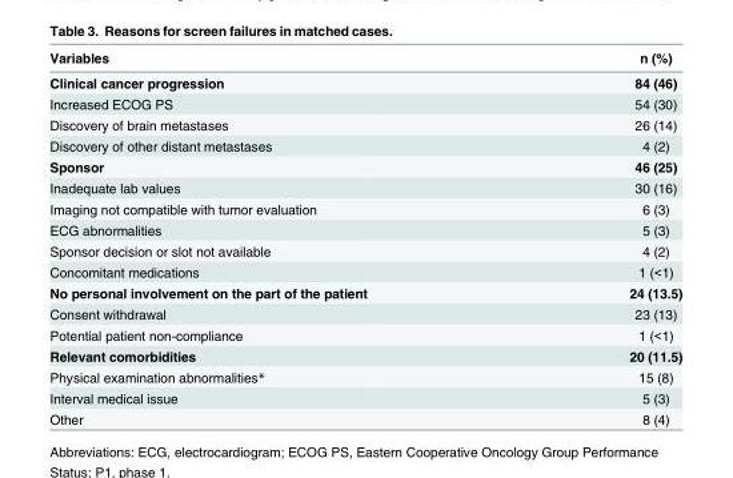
<table><thead><tr><td>Variables</td><td>n (%)</td></tr></thead><tbody><tr><td>Clinical cancer progression</td><td>84 (46)</td></tr><tr><td>Increased ECOG PS</td><td>54 (30)</td></tr><tr><td>Discovery of brain metastases</td><td>26 (14)</td></tr><tr><td>Discovery of other distant metastases</td><td>4 (2)</td></tr><tr><td>Sponsor</td><td>46 (25)</td></tr><tr><td>Inadequate lab values</td><td>30 (16)</td></tr><tr><td>Imaging not compatible with tumor evaluation</td><td>6 (3)</td></tr><tr><td>ECG abnormalities</td><td>5 (3)</td></tr><tr><td>Sponsor decision or slot not available</td><td>4 (2)</td></tr><tr><td>Concomitant medications</td><td>1 (&lt;1)</td></tr><tr><td>No personal involvement on the part of the patient</td><td>24 (13.5)</td></tr><tr><td>Consent withdrawal</td><td>23 (13)</td></tr><tr><td>Potential patient non-compliance</td><td>1 (&lt;1)</td></tr><tr><td>Relevant comorbidities</td><td>20 (11.5)</td></tr><tr><td>Physical examination abnormalities*</td><td>15 (8)</td></tr><tr><td>Interval medical issue</td><td>5 (3)</td></tr><tr><td>Other</td><td>8 (4)</td></tr></tbody></table>